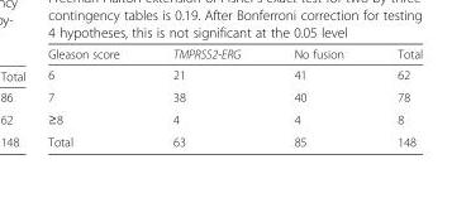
<table><thead><tr><td>Gleason score</td><td>TMPRSS2-ERG</td><td>No fusion</td><td>Total</td></tr></thead><tbody><tr><td>6</td><td>21</td><td>41</td><td>62</td></tr><tr><td>7</td><td>38</td><td>40</td><td>78</td></tr><tr><td>≥8</td><td>4</td><td>4</td><td>8</td></tr><tr><td>Total</td><td>63</td><td>85</td><td>148</td></tr></tbody></table>